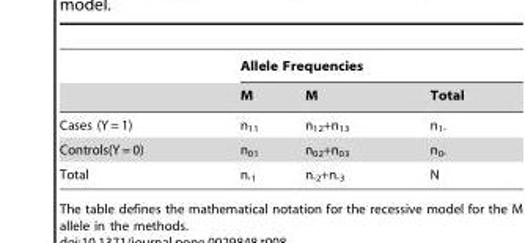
<table><thead><tr><td rowspan="2"></td><td colspan="3">Allele Frequencies</td></tr><tr><td>M</td><td>M</td><td>Total</td></tr></thead><tbody><tr><td>Cases (Y = 1)</td><td>n<sub>11</sub></td><td>n<sub>12</sub>+n<sub>13</sub></td><td>n<sub>1</sub>.</td></tr><tr><td>Controls(Y = 0)</td><td>n<sub>01</sub></td><td>n<sub>02</sub>+n<sub>03</sub></td><td>n<sub>0</sub>.</td></tr><tr><td>Total</td><td>n.<sub>1</sub></td><td>n.<sub>2</sub>+n.<sub>3</sub></td><td>N</td></tr></tbody></table>